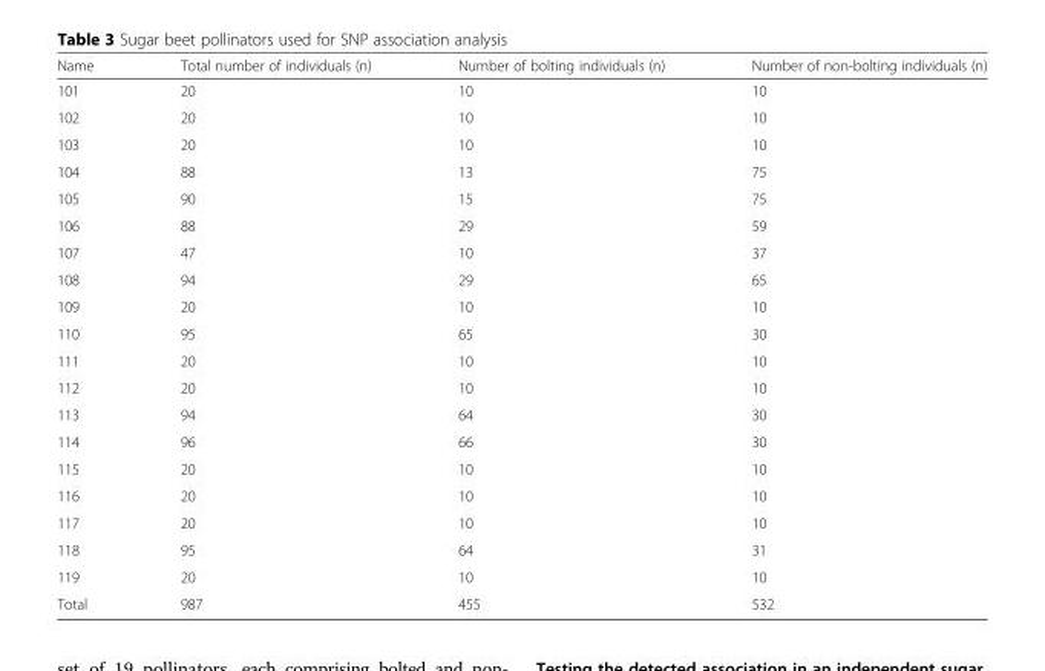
<table><thead><tr><td>Name</td><td>Total number of individuals (n)</td><td>Number of bolting individuals (n)</td><td>Number of non-bolting individuals (n)</td></tr></thead><tbody><tr><td>101</td><td>20</td><td>10</td><td>10</td></tr><tr><td>102</td><td>20</td><td>10</td><td>10</td></tr><tr><td>103</td><td>20</td><td>10</td><td>10</td></tr><tr><td>104</td><td>88</td><td>13</td><td>75</td></tr><tr><td>105</td><td>90</td><td>15</td><td>75</td></tr><tr><td>106</td><td>88</td><td>29</td><td>59</td></tr><tr><td>107</td><td>47</td><td>10</td><td>37</td></tr><tr><td>108</td><td>94</td><td>29</td><td>65</td></tr><tr><td>109</td><td>20</td><td>10</td><td>10</td></tr><tr><td>110</td><td>95</td><td>65</td><td>30</td></tr><tr><td>111</td><td>20</td><td>10</td><td>10</td></tr><tr><td>112</td><td>20</td><td>10</td><td>10</td></tr><tr><td>113</td><td>94</td><td>64</td><td>30</td></tr><tr><td>114</td><td>96</td><td>66</td><td>30</td></tr><tr><td>115</td><td>20</td><td>10</td><td>10</td></tr><tr><td>116</td><td>20</td><td>10</td><td>10</td></tr><tr><td>117</td><td>20</td><td>10</td><td>10</td></tr><tr><td>118</td><td>95</td><td>64</td><td>31</td></tr><tr><td>119</td><td>20</td><td>10</td><td>10</td></tr><tr><td>Total</td><td>987</td><td>455</td><td>532</td></tr></tbody></table>